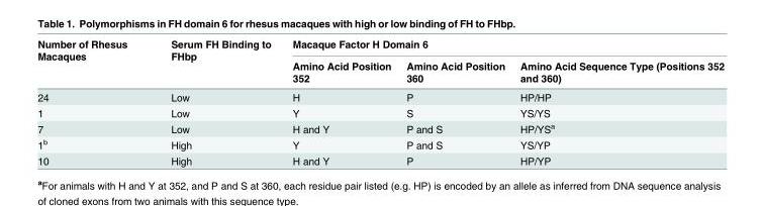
<table><thead><tr><td rowspan="2">Number of Rhesus Macaques</td><td rowspan="2">Serum FH Binding to FHbp</td><td colspan="3">Macaque Factor H Domain 6</td></tr><tr><td>Amino Acid Position 352</td><td>Amino Acid Position 360</td><td>Amino Acid Sequence Type (Positions 352 and 360)</td></tr></thead><tbody><tr><td>24</td><td>Low</td><td>H</td><td>P</td><td>HP/HP</td></tr><tr><td>1</td><td>Low</td><td>Y</td><td>S</td><td>YS/YS</td></tr><tr><td>7</td><td>Low</td><td>H and Y</td><td>P and S</td><td>HP/YS<sup>a</sup></td></tr><tr><td>1<sup>b</sup></td><td>High</td><td>Y</td><td>P and S</td><td>YS/YP</td></tr><tr><td>10</td><td>High</td><td>H and Y</td><td>P</td><td>HP/YP</td></tr></tbody></table>